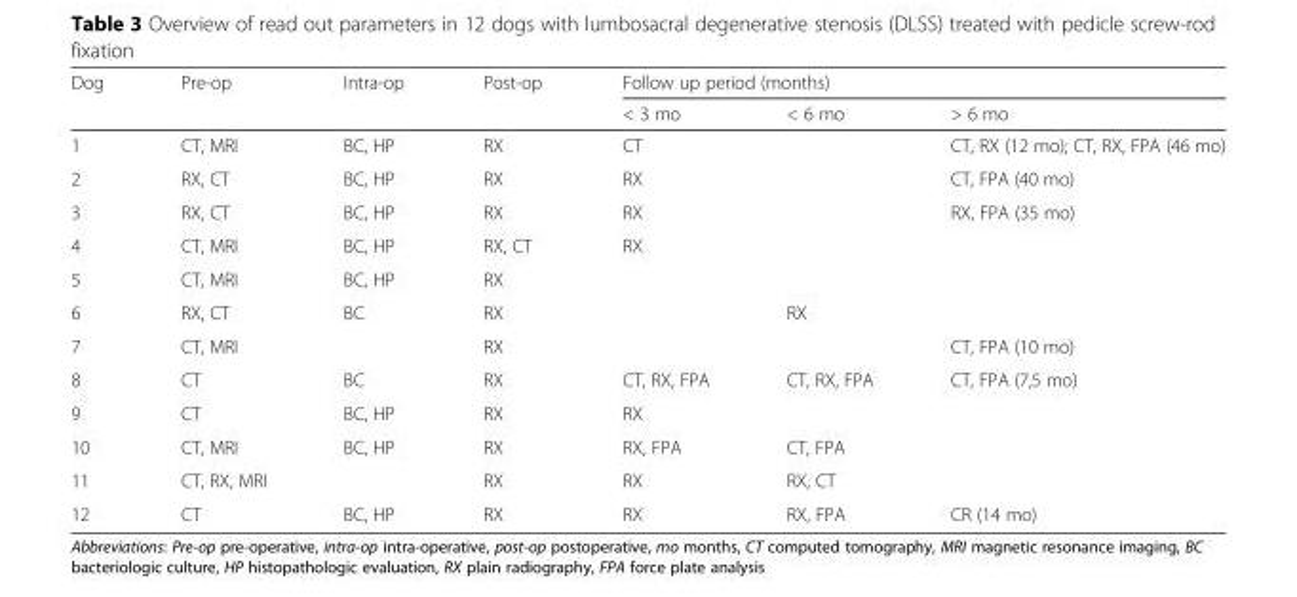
<table><thead><tr><td rowspan="2">Dog</td><td rowspan="2">Pre-op</td><td rowspan="2">Intra-op</td><td rowspan="2">Post-op</td><td colspan="3">Follow up period (months)</td></tr><tr><td>&lt; 3 mo</td><td>&lt; 6 mo</td><td>&gt; 6 mo</td></tr></thead><tbody><tr><td>1</td><td>CT, MRI</td><td>BC, HP</td><td>RX</td><td>CT</td><td></td><td>CT, RX (12 mo); CT, RX, FPA (46 mo)</td></tr><tr><td>2</td><td>RX, CT</td><td>BC, HP</td><td>RX</td><td>RX</td><td></td><td>CT, FPA (40 mo)</td></tr><tr><td>3</td><td>RX, CT</td><td>BC, HP</td><td>RX</td><td>RX</td><td></td><td>RX, FPA (35 mo)</td></tr><tr><td>4</td><td>CT, MRI</td><td>BC, HP</td><td>RX, CT</td><td>RX</td><td></td><td></td></tr><tr><td>5</td><td>CT, MRI</td><td>BC, HP</td><td>RX</td><td></td><td></td><td></td></tr><tr><td>6</td><td>RX, CT</td><td>BC</td><td>RX</td><td></td><td>RX</td><td></td></tr><tr><td>7</td><td>CT, MRI</td><td></td><td>RX</td><td></td><td></td><td>CT, FPA (10 mo)</td></tr><tr><td>8</td><td>CT</td><td>BC</td><td>RX</td><td>CT, RX, FPA</td><td>CT, RX, FPA</td><td>CT, FPA (7,5 mo)</td></tr><tr><td>9</td><td>CT</td><td>BC, HP</td><td>RX</td><td>RX</td><td></td><td></td></tr><tr><td>10</td><td>CT, MRI</td><td>BC, HP</td><td>RX</td><td>RX, FPA</td><td>CT, FPA</td><td></td></tr><tr><td>11</td><td>CT, RX, MRI</td><td></td><td>RX</td><td>RX</td><td>RX, CT</td><td></td></tr><tr><td>12</td><td>CT</td><td>BC, HP</td><td>RX</td><td>RX</td><td>RX, FPA</td><td>CR (14 mo)</td></tr></tbody></table>